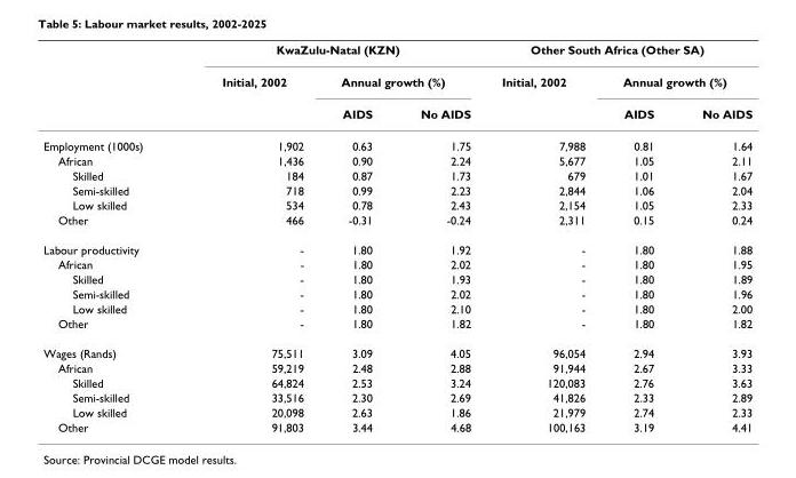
<table><thead><tr><td rowspan="3"></td><td colspan="3">KwaZulu-Natal (KZN)</td><td colspan="3">Other South Africa (Other SA)</td></tr><tr><td rowspan="2">Initial, 2002</td><td colspan="2">Annual growth (%)</td><td rowspan="2">Initial, 2002</td><td colspan="2">Annual growth (%)</td></tr><tr><td>AIDS</td><td>No AIDS</td><td>AIDS</td><td>No AIDS</td></tr></thead><tbody><tr><td>Employment (1000s)</td><td>1,902</td><td>0.63</td><td>1.75</td><td>7,988</td><td>0.81</td><td>1.64</td></tr><tr><td>African</td><td>1,436</td><td>0.90</td><td>2.24</td><td>5,677</td><td>1.05</td><td>2.11</td></tr><tr><td>Skilled</td><td>184</td><td>0.87</td><td>1.73</td><td>679</td><td>1.01</td><td>1.67</td></tr><tr><td>Semi-skilled</td><td>718</td><td>0.99</td><td>2.23</td><td>2,844</td><td>1.06</td><td>2.04</td></tr><tr><td>Low skilled</td><td>534</td><td>0.78</td><td>2.43</td><td>2,154</td><td>1.05</td><td>2.33</td></tr><tr><td>Other</td><td>466</td><td>-0.31</td><td>-0.24</td><td>2,311</td><td>0.15</td><td>0.24</td></tr><tr><td>Labour productivity</td><td>-</td><td>1.80</td><td>1.92</td><td>-</td><td>1.80</td><td>1.88</td></tr><tr><td>African</td><td>-</td><td>1.80</td><td>2.02</td><td>-</td><td>1.80</td><td>1.95</td></tr><tr><td>Skilled</td><td>-</td><td>1.80</td><td>1.93</td><td>-</td><td>1.80</td><td>1.89</td></tr><tr><td>Semi-skilled</td><td>-</td><td>1.80</td><td>2.02</td><td>-</td><td>1.80</td><td>1.96</td></tr><tr><td>Low skilled</td><td>-</td><td>1.80</td><td>2.10</td><td>-</td><td>1.80</td><td>2.00</td></tr><tr><td>Other</td><td>-</td><td>1.80</td><td>1.82</td><td>-</td><td>1.80</td><td>1.82</td></tr><tr><td>Wages (Rands)</td><td>75,511</td><td>3.09</td><td>4.05</td><td>96,054</td><td>2.94</td><td>3.93</td></tr><tr><td>African</td><td>59,219</td><td>2.48</td><td>2.88</td><td>91,944</td><td>2.67</td><td>3.33</td></tr><tr><td>Skilled</td><td>64,824</td><td>2.53</td><td>3.24</td><td>120,083</td><td>2.76</td><td>3.63</td></tr><tr><td>Semi-skilled</td><td>33,516</td><td>2.30</td><td>2.69</td><td>41,826</td><td>2.33</td><td>2.89</td></tr><tr><td>Low skilled</td><td>20,098</td><td>2.63</td><td>1.86</td><td>21,979</td><td>2.74</td><td>2.33</td></tr><tr><td>Other</td><td>91,803</td><td>3.44</td><td>4.68</td><td>100,163</td><td>3.19</td><td>4.41</td></tr></tbody></table>